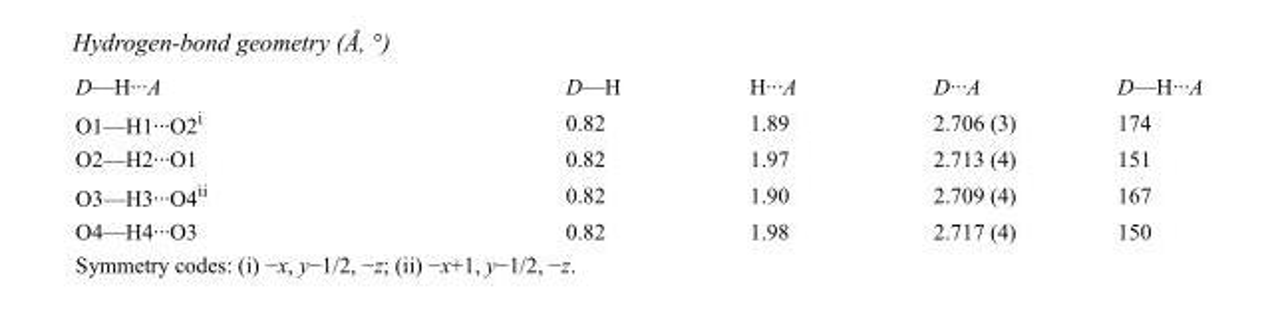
<table><tbody><tr><td>D—H···A</td><td>D—H</td><td>H···A</td><td>D···A</td><td>D—H···A</td></tr><tr><td>O1—H1···O2<sup>i</sup></td><td>0.82</td><td>1.89</td><td>2.706 (3)</td><td>174</td></tr><tr><td>O2—H2···O1</td><td>0.82</td><td>1.97</td><td>2.713 (4)</td><td>151</td></tr><tr><td>O3—H3···O4<sup>ii</sup></td><td>0.82</td><td>1.90</td><td>2.709 (4)</td><td>167</td></tr><tr><td>O4—H4···O3</td><td>0.82</td><td>1.98</td><td>2.717 (4)</td><td>150</td></tr></tbody></table>